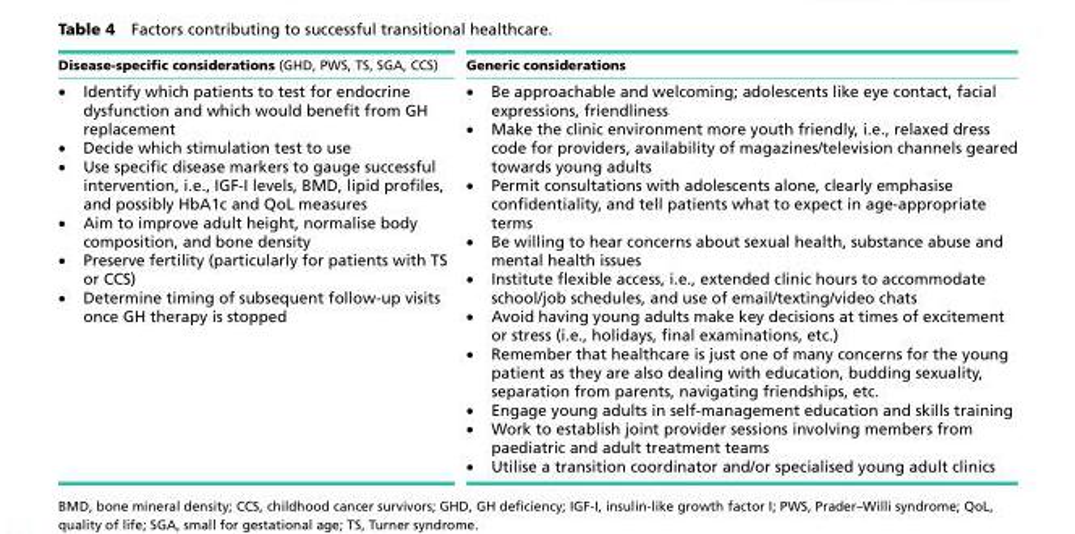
<table><thead><tr><td>Disease-specific considerations (GHD, PWS, TS, SGA, CCS)</td><td>Generic considerations</td></tr></thead><tbody><tr><td>• Identify which patients to test for endocrine dysfunction and which would benefit from GH replacement • Decide which stimulation test to use • Use specific disease markers to gauge successful intervention, i.e., IGF-I levels, BMD, lipid profiles, and possibly HbA1c and QoL measures • Aim to improve adult height, normalise body composition, and bone density • Preserve fertility (particularly for patients with TS or CCS) • Determine timing of subsequent follow-up visits once GH therapy is stopped</td><td>• Be approachable and welcoming; adolescents like eye contact, facial expressions, friendliness • Make the clinic environment more youth friendly, i.e., relaxed dress code for providers, availability of magazines/television channels geared towards young adults • Permit consultations with adolescents alone, clearly emphasise confidentiality, and tell patients what to expect in age-appropriate terms • Be willing to hear concerns about sexual health, substance abuse and mental health issues • Institute flexible access, i.e., extended clinic hours to accommodate school/job schedules, and use of email/texting/video chats • Avoid having young adults make key decisions at times of excitement or stress (i.e., holidays, final examinations, etc.) • Remember that healthcare is just one of many concerns for the young patient as they are also dealing with education, budding sexuality, separation from parents, navigating friendships, etc. • Engage young adults in self-management education and skills training • Work to establish joint provider sessions involving members from paediatric and adult treatment teams • Utilise a transition coordinator and/or specialised young adult clinics</td></tr></tbody></table>